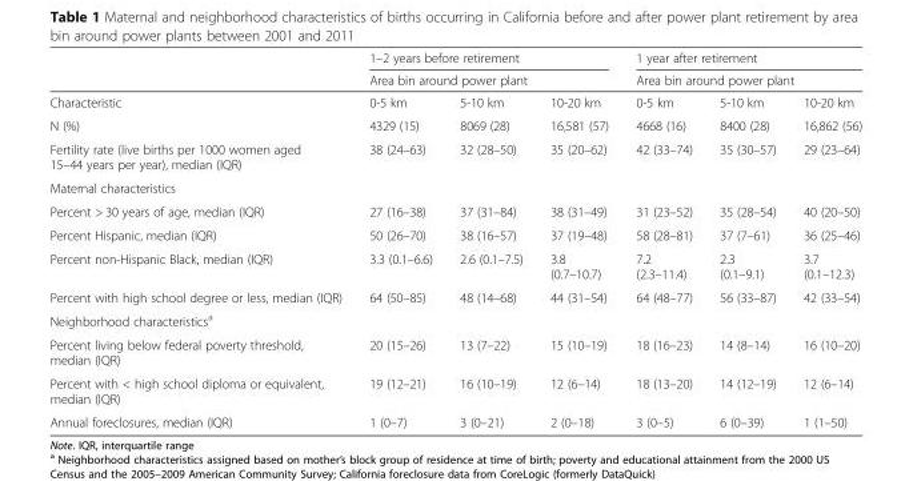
<table><thead><tr><td rowspan="3">Characteristic</td><td rowspan="2" colspan="3">1–2 years before retirement Area bin around power plant</td><td rowspan="2" colspan="3">1 year after retirement Area bin around power plant</td></tr><tr></tr><tr><td>0-5 km</td><td>5-10 km</td><td>10-20 km</td><td>0-5 km</td><td>5-10 km</td><td>10-20 km</td></tr></thead><tbody><tr><td>N (%)</td><td>4329 (15)</td><td>8069 (28)</td><td>16,581 (57)</td><td>4668 (16)</td><td>8400 (28)</td><td>16,862 (56)</td></tr><tr><td>Fertility rate (live births per 1000 women aged 15–44 years per year), median (IQR)</td><td>38 (24–63)</td><td>32 (28–50)</td><td>35 (20–62)</td><td>42 (33–74)</td><td>35 (30–57)</td><td>29 (23–64)</td></tr><tr><td colspan="7">Maternal characteristics</td></tr><tr><td>Percent &gt; 30 years of age, median (IQR)</td><td>27 (16–38)</td><td>37 (31–84)</td><td>38 (31–49)</td><td>31 (23–52)</td><td>35 (28–54)</td><td>40 (20–50)</td></tr><tr><td>Percent Hispanic, median (IQR)</td><td>50 (26–70)</td><td>38 (16–57)</td><td>37 (19–48)</td><td>58 (28–81)</td><td>37 (7–61)</td><td>36 (25–46)</td></tr><tr><td>Percent non-Hispanic Black, median (IQR)</td><td>3.3 (0.1–6.6)</td><td>2.6 (0.1–7.5)</td><td>3.8 (0.7–10.7)</td><td>7.2 (2.3–11.4)</td><td>2.3 (0.1–9.1)</td><td>3.7 (0.1–12.3)</td></tr><tr><td>Percent with high school degree or less, median (IQR)</td><td>64 (50–85)</td><td>48 (14–68)</td><td>44 (31–54)</td><td>64 (48–77)</td><td>56 (33–87)</td><td>42 (33–54)</td></tr><tr><td colspan="7">Neighborhood characteristics<sup>a</sup></td></tr><tr><td>Percent living below federal poverty threshold, median (IQR)</td><td>20 (15–26)</td><td>13 (7–22)</td><td>15 (10–19)</td><td>18 (16–23)</td><td>14 (8–14)</td><td>16 (10–20)</td></tr><tr><td>Percent with &lt; high school diploma or equivalent, median (IQR)</td><td>19 (12–21)</td><td>16 (10–19)</td><td>12 (6–14)</td><td>18 (13–20)</td><td>14 (12–19)</td><td>12 (6–14)</td></tr><tr><td>Annual foreclosures, median (IQR)</td><td>1 (0–7)</td><td>3 (0–21)</td><td>2 (0–18)</td><td>3 (0–5)</td><td>6 (0–39)</td><td>1 (1–50)</td></tr></tbody></table>